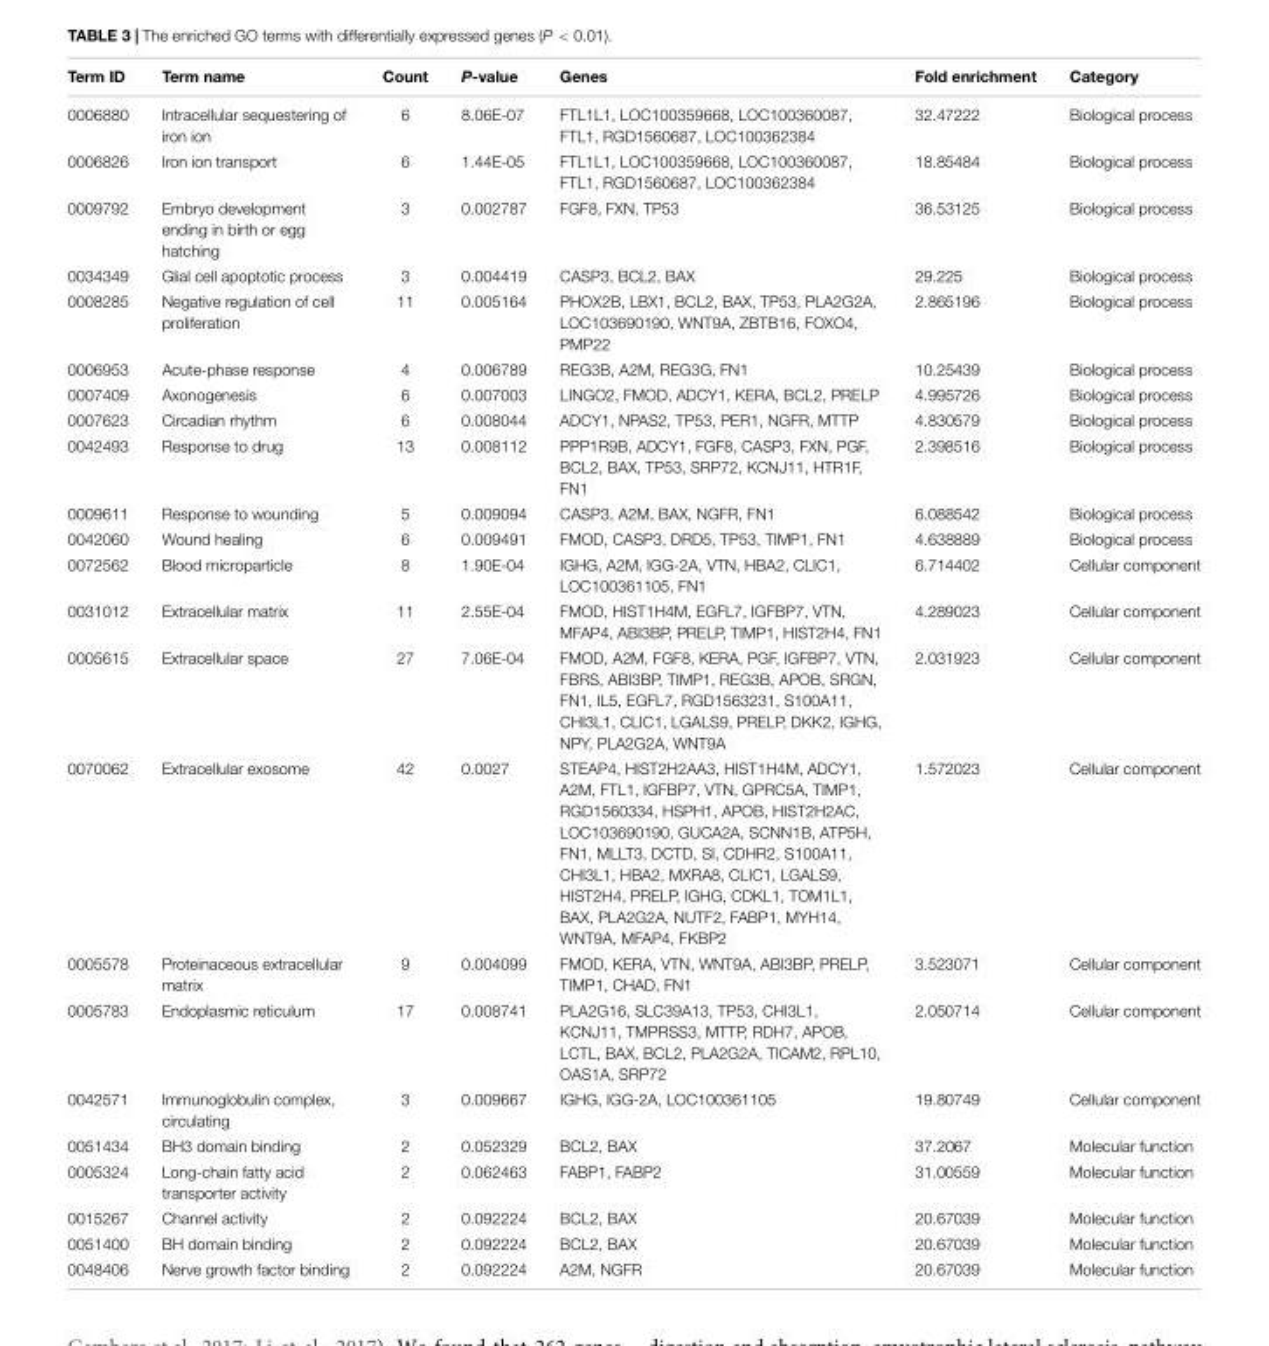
<table><thead><tr><td>Term ID</td><td>Term name</td><td>Count</td><td>P-value</td><td>Genes</td><td>Fold enrichment</td><td>Category</td></tr></thead><tbody><tr><td>0006880</td><td>Intracellular sequestering of iron ion</td><td>6</td><td>8.06E-07</td><td>FTL1L1, LOC100359668, LOC100360087, FTL1, RGD1560687, LOC100362384</td><td>32.47222</td><td>Biological process</td></tr><tr><td>0006826</td><td>Iron ion transport</td><td>6</td><td>1.44E-05</td><td>FTL1L1, LOC100359668, LOC100360087, FTL1, RGD1560687, LOC100362384</td><td>18.85484</td><td>Biological process</td></tr><tr><td>0009792</td><td>Embryo development ending in birth or egg hatching</td><td>3</td><td>0.002787</td><td>FGF8, FXN, TP53</td><td>36.53125</td><td>Biological process</td></tr><tr><td>0034349</td><td>Glial cell apoptotic process</td><td>3</td><td>0.004419</td><td>CASP3, BCL2, BAX</td><td>29.225</td><td>Biological process</td></tr><tr><td>0008285</td><td>Negative regulation of cell proliferation</td><td>11</td><td>0.005164</td><td>PHOX2B, LBX1, BCL2, BAX, TP53, PLA2G2A, LOC103690190, WNT9A, ZBTB16, FOXO4, PMP22</td><td>2.865196</td><td>Biological process</td></tr><tr><td>0006953</td><td>Acute-phase response</td><td>4</td><td>0.006789</td><td>REG3B, A2M, REG3G, FN1</td><td>10.25439</td><td>Biological process</td></tr><tr><td>0007409</td><td>Axonogenesis</td><td>6</td><td>0.007003</td><td>LINGO2, FMOD, ADCY1, KERA, BCL2, PRELP</td><td>4.995726</td><td>Biological process</td></tr><tr><td>0007623</td><td>Circadian rhythm</td><td>6</td><td>0.008044</td><td>ADCY1, NPAS2, TP53, PER1, NGFR, MTTP</td><td>4.830579</td><td>Biological process</td></tr><tr><td>0042493</td><td>Response to drug</td><td>13</td><td>0.008112</td><td>PPP1R9B, ADCY1, FGF8, CASP3, FXN, PGF, BCL2, BAX, TP53, SRP72, KCNJ11, HTR1F, FN1</td><td>2.398516</td><td>Biological process</td></tr><tr><td>0009611</td><td>Response to wounding</td><td>5</td><td>0.009094</td><td>CASP3, A2M, BAX, NGFR, FN1</td><td>6.088542</td><td>Biological process</td></tr><tr><td>0042060</td><td>Wound healing</td><td>6</td><td>0.009491</td><td>FMOD, CASP3, DRD5, TP53, TIMP1, FN1</td><td>4.638889</td><td>Biological process</td></tr><tr><td>0072562</td><td>Blood microparticle</td><td>8</td><td>1.90E-04</td><td>IGHG, A2M, IGG-2A, VTN, HBA2, CLIC1, LOC100361105, FN1</td><td>6.714402</td><td>Cellular component</td></tr><tr><td>0031012</td><td>Extracellular matrix</td><td>11</td><td>2.55E-04</td><td>FMOD, HIST1H4M, EGFL7, IGFBP7, VTN, MFAP4, ABI3BP, PRELP, TIMP1, HIST2H4, FN1</td><td>4.289023</td><td>Cellular component</td></tr><tr><td>0005615</td><td>Extracellular space</td><td>27</td><td>7.06E-04</td><td>FMOD, A2M, FGF8, KERA, PGF, IGFBP7, VTN, FBRS, ABI3BP, TIMP1, REG3B, APOB, SRGN, FN1, IL5, EGFL7, RGD1563231, S100A11, CHI3L1, CLIC1, LGALS9, PRELP, DKK2, IGHG, NPY, PLA2G2A, WNT9A</td><td>2.031923</td><td>Cellular component</td></tr><tr><td>0070062</td><td>Extracellular exosome</td><td>42</td><td>0.0027</td><td>STEAP4, HIST2H2AA3, HIST1H4M, ADCY1, A2M, FTL1, IGFBP7, VTN, GPRC5A, TIMP1, RGD1560334, HSPH1, APOB, HIST2H2AC, LOC103690190, GUCA2A, SCNN1B, ATP5H, FN1, MLLT3, DCTD, SI, CDHR2, S100A11, CHI3L1, HBA2, MXRA8, CLIC1, LGALS9, HIST2H4, PRELP, IGHG, CDKL1, TOM1L1, BAX, PLA2G2A, NUTF2, FABP1, MYH14, WNT9A, MFAP4, FKBP2</td><td>1.572023</td><td>Cellular component</td></tr><tr><td>0005578</td><td>Proteinaceous extracellular matrix</td><td>9</td><td>0.004099</td><td>FMOD, KERA, VTN, WNT9A, ABI3BP, PRELP, TIMP1, CHAD, FN1</td><td>3.523071</td><td>Cellular component</td></tr><tr><td>0005783</td><td>Endoplasmic reticulum</td><td>17</td><td>0.008741</td><td>PLA2G16, SLC39A13, TP53, CHI3L1, KCNJ11, TMPRSS3, MTTP, RDH7, APOB, LCTL, BAX, BCL2, PLA2G2A, TICAM2, RPL10, OAS1A, SRP72</td><td>2.050714</td><td>Cellular component</td></tr><tr><td>0042571</td><td>Immunoglobulin complex, circulating</td><td>3</td><td>0.009667</td><td>IGHG, IGG-2A, LOC100361105</td><td>19.80749</td><td>Cellular component</td></tr><tr><td>0051434</td><td>BH3 domain binding</td><td>2</td><td>0.052329</td><td>BCL2, BAX</td><td>37.2067</td><td>Molecular function</td></tr><tr><td>0005324</td><td>Long-chain fatty acid transporter activity</td><td>2</td><td>0.062463</td><td>FABP1, FABP2</td><td>31.00559</td><td>Molecular function</td></tr><tr><td>0015267</td><td>Channel activity</td><td>2</td><td>0.092224</td><td>BCL2, BAX</td><td>20.67039</td><td>Molecular function</td></tr><tr><td>0051400</td><td>BH domain binding</td><td>2</td><td>0.092224</td><td>BCL2, BAX</td><td>20.67039</td><td>Molecular function</td></tr><tr><td>0048406</td><td>Nerve growth factor binding</td><td>2</td><td>0.092224</td><td>A2M, NGFR</td><td>20.67039</td><td>Molecular function</td></tr></tbody></table>